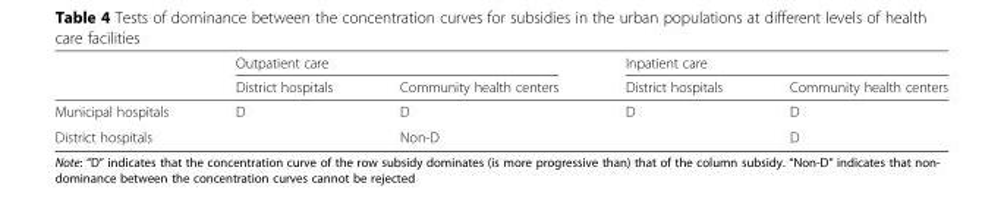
<table><thead><tr><td rowspan="2"></td><td colspan="2">Outpatient care</td><td colspan="2">Inpatient care</td></tr><tr><td>District hospitals</td><td>Community health centers</td><td>District hospitals</td><td>Community health centers</td></tr></thead><tbody><tr><td>Municipal hospitals</td><td>D</td><td>D</td><td>D</td><td>D</td></tr><tr><td>District hospitals</td><td></td><td>Non-D</td><td></td><td>D</td></tr></tbody></table>